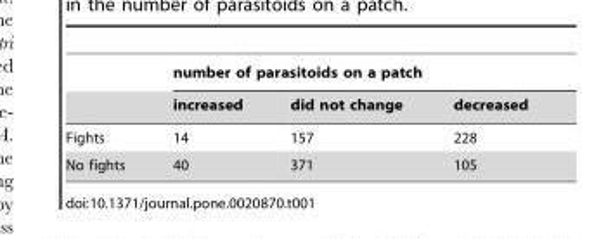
<table><thead><tr><td rowspan="2"></td><td colspan="3">number of parasitoids on a patch</td></tr><tr><td>increased</td><td>did not change</td><td>decreased</td></tr></thead><tbody><tr><td>Fights</td><td>14</td><td>157</td><td>228</td></tr><tr><td>No fights</td><td>40</td><td>371</td><td>105</td></tr></tbody></table>